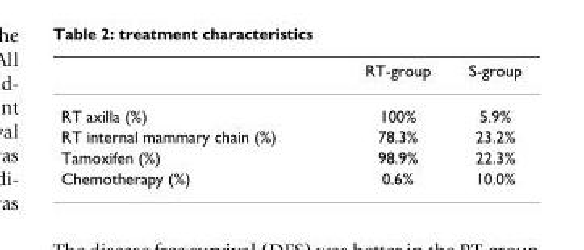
<table><thead><tr><td></td><td>RT-group</td><td>S-group</td></tr></thead><tbody><tr><td>RT axilla (%)</td><td>100%</td><td>5.9%</td></tr><tr><td>RT internal mammary chain (%)</td><td>78.3%</td><td>23.2%</td></tr><tr><td>Tamoxifen (%)</td><td>98.9%</td><td>22.3%</td></tr><tr><td>Chemotherapy (%)</td><td>0.6%</td><td>10.0%</td></tr></tbody></table>